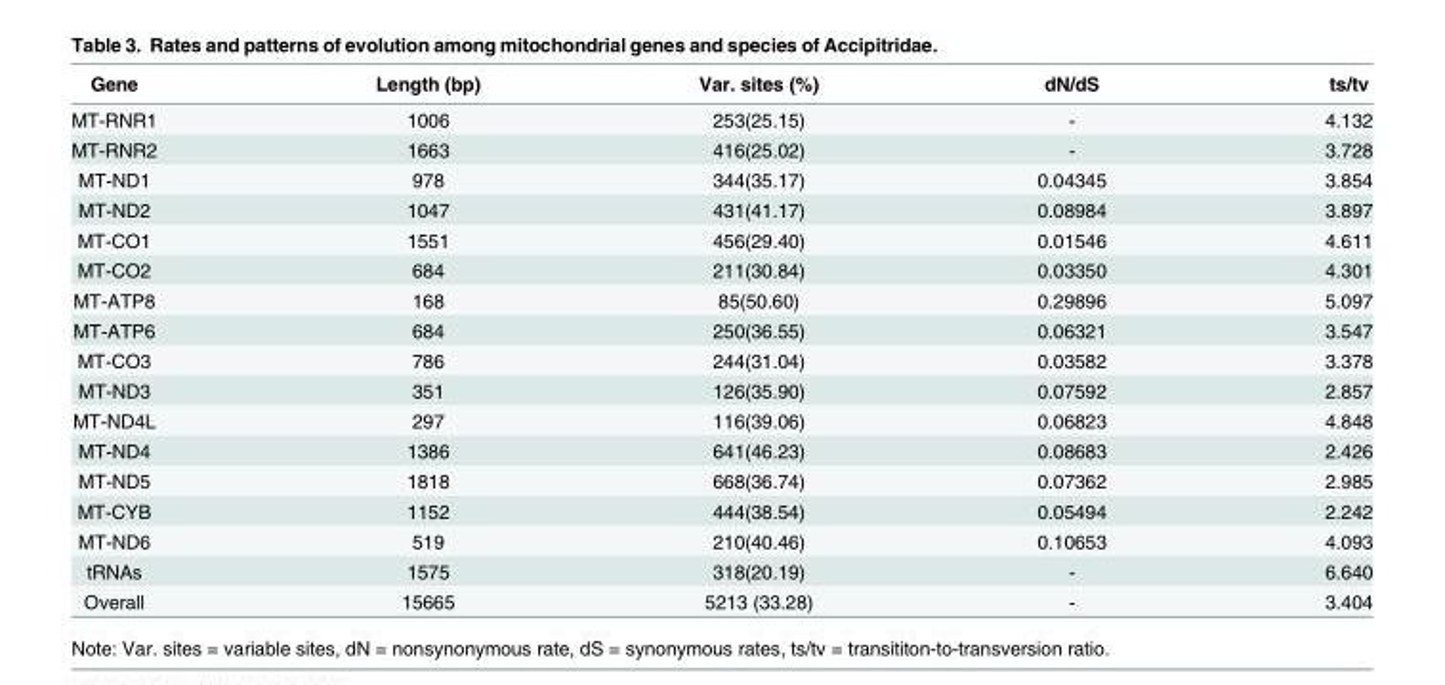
<table><thead><tr><td>Gene</td><td>Length (bp)</td><td>Var. sites (%)</td><td>dN/dS</td><td>ts/tv</td></tr></thead><tbody><tr><td>MT-RNR1</td><td>1006</td><td>253(25.15)</td><td>-</td><td>4.132</td></tr><tr><td>MT-RNR2</td><td>1663</td><td>416(25.02)</td><td>-</td><td>3.728</td></tr><tr><td>MT-ND1</td><td>978</td><td>344(35.17)</td><td>0.04345</td><td>3.854</td></tr><tr><td>MT-ND2</td><td>1047</td><td>431(41.17)</td><td>0.08984</td><td>3.897</td></tr><tr><td>MT-CO1</td><td>1551</td><td>456(29.40)</td><td>0.01546</td><td>4.611</td></tr><tr><td>MT-CO2</td><td>684</td><td>211(30.84)</td><td>0.03350</td><td>4.301</td></tr><tr><td>MT-ATP8</td><td>168</td><td>85(50.60)</td><td>0.29896</td><td>5.097</td></tr><tr><td>MT-ATP6</td><td>684</td><td>250(36.55)</td><td>0.06321</td><td>3.547</td></tr><tr><td>MT-CO3</td><td>786</td><td>244(31.04)</td><td>0.03582</td><td>3.378</td></tr><tr><td>MT-ND3</td><td>351</td><td>126(35.90)</td><td>0.07592</td><td>2.857</td></tr><tr><td>MT-ND4L</td><td>297</td><td>116(39.06)</td><td>0.06823</td><td>4.848</td></tr><tr><td>MT-ND4</td><td>1386</td><td>641(46.23)</td><td>0.08683</td><td>2.426</td></tr><tr><td>MT-ND5</td><td>1818</td><td>668(36.74)</td><td>0.07362</td><td>2.985</td></tr><tr><td>MT-CYB</td><td>1152</td><td>444(38.54)</td><td>0.05494</td><td>2.242</td></tr><tr><td>MT-ND6</td><td>519</td><td>210(40.46)</td><td>0.10653</td><td>4.093</td></tr><tr><td>tRNAs</td><td>1575</td><td>318(20.19)</td><td>-</td><td>6.640</td></tr><tr><td>Overall</td><td>15665</td><td>5213 (33.28)</td><td>-</td><td>3.404</td></tr></tbody></table>